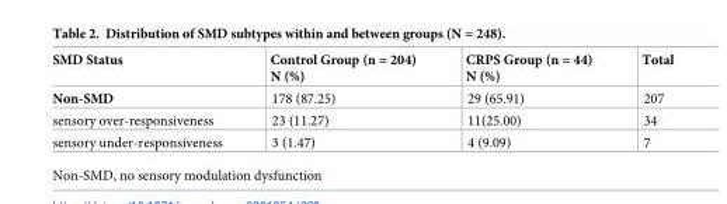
<table><thead><tr><td>SMD Status</td><td>Control Group (n = 204) N (%)</td><td>CRPS Group (n = 44) N (%)</td><td>Total</td></tr></thead><tbody><tr><td>Non-SMD</td><td>178 (87.25)</td><td>29 (65.91)</td><td>207</td></tr><tr><td>sensory over-responsiveness</td><td>23 (11.27)</td><td>11(25.00)</td><td>34</td></tr><tr><td>sensory under-responsiveness</td><td>3 (1.47)</td><td>4 (9.09)</td><td>7</td></tr></tbody></table>